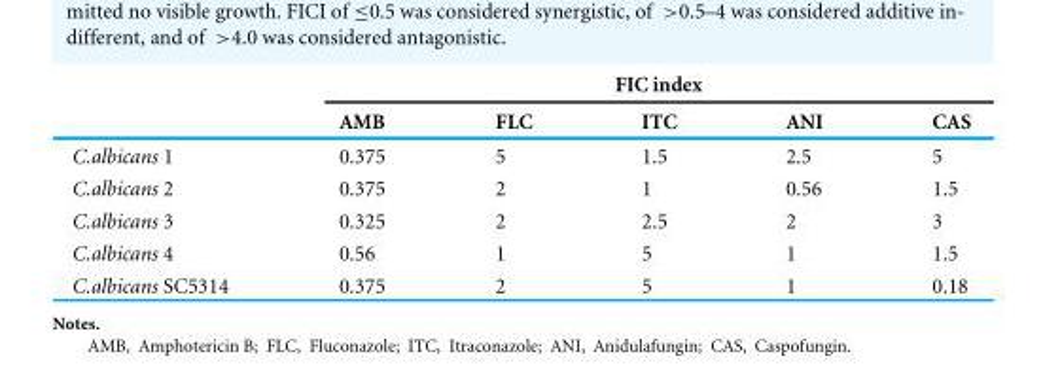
<table><thead><tr><td rowspan="2"></td><td colspan="5">FIC index</td></tr><tr><td>AMB</td><td>FLC</td><td>ITC</td><td>ANI</td><td>CAS</td></tr></thead><tbody><tr><td>C.albicans 1</td><td>0.375</td><td>5</td><td>1.5</td><td>2.5</td><td>5</td></tr><tr><td>C.albicans 2</td><td>0.375</td><td>2</td><td>1</td><td>0.56</td><td>1.5</td></tr><tr><td>C.albicans 3</td><td>0.325</td><td>2</td><td>2.5</td><td>2</td><td>3</td></tr><tr><td>C.albicans 4</td><td>0.56</td><td>1</td><td>5</td><td>1</td><td>1.5</td></tr><tr><td>C.albicans SC5314</td><td>0.375</td><td>2</td><td>5</td><td>1</td><td>0.18</td></tr></tbody></table>